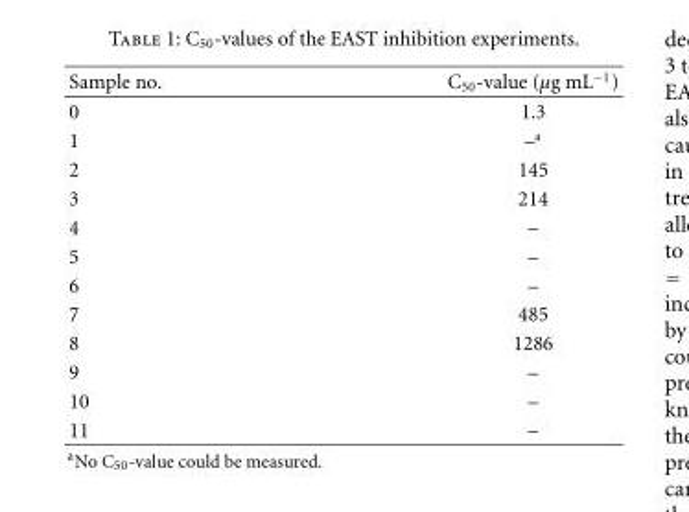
<table><thead><tr><td>Sample no.</td><td>C<sub>50</sub>-value (μg mL<sup>−1</sup>)</td></tr></thead><tbody><tr><td>0</td><td>1.3</td></tr><tr><td>1</td><td>–<sup>a</sup></td></tr><tr><td>2</td><td>145</td></tr><tr><td>3</td><td>214</td></tr><tr><td>4</td><td>–</td></tr><tr><td>5</td><td>–</td></tr><tr><td>6</td><td>–</td></tr><tr><td>7</td><td>485</td></tr><tr><td>8</td><td>1286</td></tr><tr><td>9</td><td>–</td></tr><tr><td>10</td><td>–</td></tr><tr><td>11</td><td>–</td></tr></tbody></table>